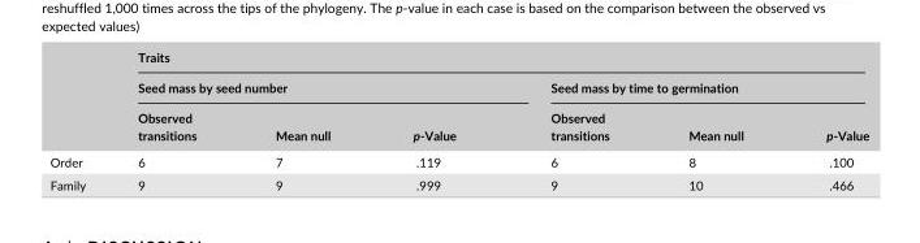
<table><thead><tr><td rowspan="3"></td><td colspan="6">Traits</td></tr><tr><td colspan="3">Seed mass by seed number</td><td colspan="3">Seed mass by time to germination</td></tr><tr><td>Observed transitions</td><td>Mean null</td><td>p- Value</td><td>Observed transitions</td><td>Mean null</td><td>p- Value</td></tr></thead><tbody><tr><td>Order</td><td>6</td><td>7</td><td>.119</td><td>6</td><td>8</td><td>.100</td></tr><tr><td>Family</td><td>9</td><td>9</td><td>.999</td><td>9</td><td>10</td><td>.466</td></tr></tbody></table>